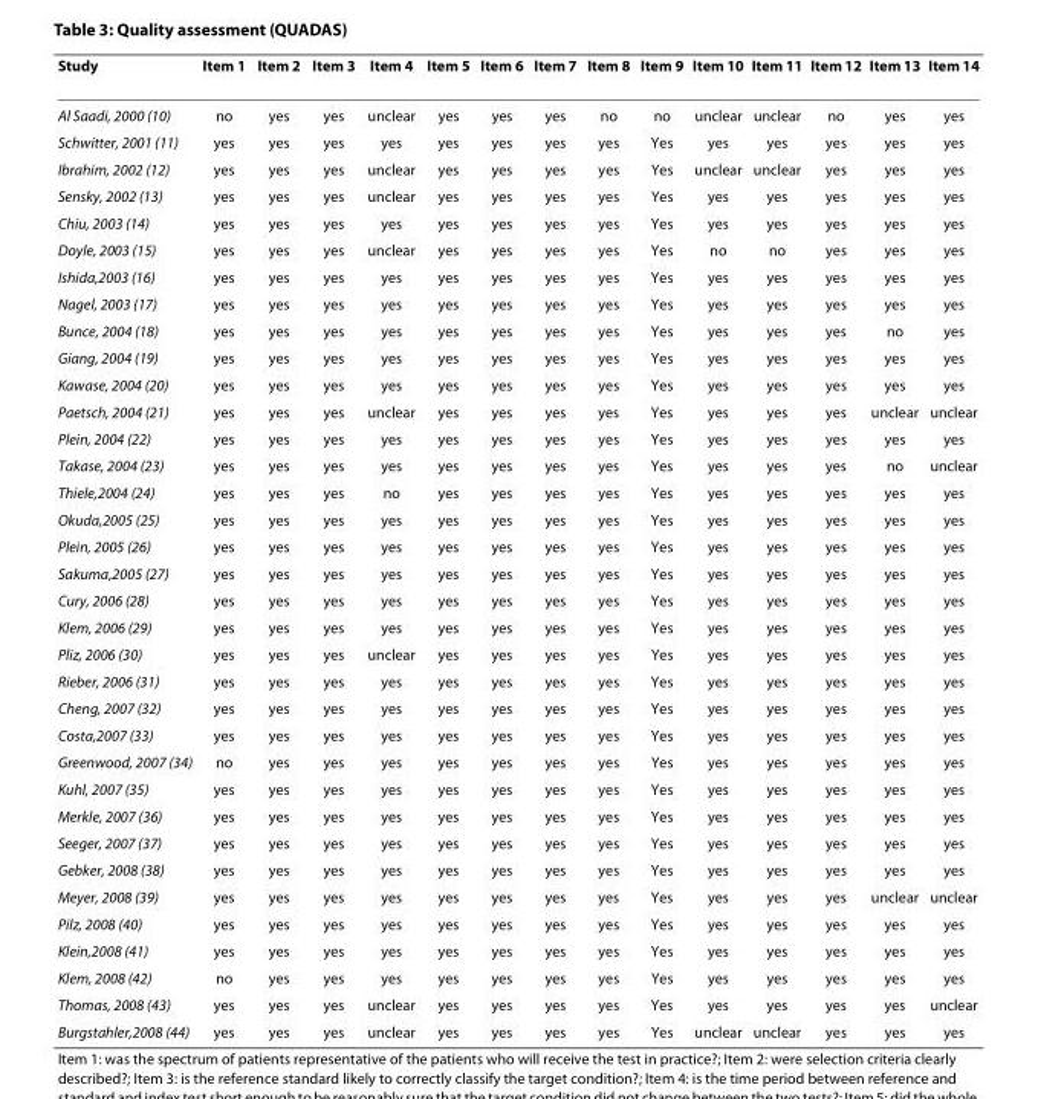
<table><thead><tr><td>Study</td><td>Item 1</td><td>Item 2</td><td>Item 3</td><td>Item 4</td><td>Item 5</td><td>Item 6</td><td>Item 7</td><td>Item 8</td><td>Item 9</td><td>Item 10</td><td>Item 11</td><td>Item 12</td><td>Item 13</td><td>Item 14</td></tr></thead><tbody><tr><td>Al Saadi, 2000 (10)</td><td>no</td><td>yes</td><td>yes</td><td>unclear</td><td>yes</td><td>yes</td><td>yes</td><td>no</td><td>no</td><td>unclear</td><td>unclear</td><td>no</td><td>yes</td><td>yes</td></tr><tr><td>Schwitter, 2001 (11)</td><td>yes</td><td>yes</td><td>yes</td><td>yes</td><td>yes</td><td>yes</td><td>yes</td><td>yes</td><td>Yes</td><td>yes</td><td>yes</td><td>yes</td><td>yes</td><td>yes</td></tr><tr><td>Ibrahim, 2002 (12)</td><td>yes</td><td>yes</td><td>yes</td><td>unclear</td><td>yes</td><td>yes</td><td>yes</td><td>yes</td><td>Yes</td><td>unclear</td><td>unclear</td><td>yes</td><td>yes</td><td>yes</td></tr><tr><td>Sensky, 2002 (13)</td><td>yes</td><td>yes</td><td>yes</td><td>unclear</td><td>yes</td><td>yes</td><td>yes</td><td>yes</td><td>Yes</td><td>yes</td><td>yes</td><td>yes</td><td>yes</td><td>yes</td></tr><tr><td>Chiu, 2003 (14)</td><td>yes</td><td>yes</td><td>yes</td><td>yes</td><td>yes</td><td>yes</td><td>yes</td><td>yes</td><td>Yes</td><td>yes</td><td>yes</td><td>yes</td><td>yes</td><td>yes</td></tr><tr><td>Doyle, 2003 (15)</td><td>yes</td><td>yes</td><td>yes</td><td>unclear</td><td>yes</td><td>yes</td><td>yes</td><td>yes</td><td>Yes</td><td>no</td><td>no</td><td>yes</td><td>yes</td><td>yes</td></tr><tr><td>Ishida,2003 (16)</td><td>yes</td><td>yes</td><td>yes</td><td>yes</td><td>yes</td><td>yes</td><td>yes</td><td>yes</td><td>Yes</td><td>yes</td><td>yes</td><td>yes</td><td>yes</td><td>yes</td></tr><tr><td>Nagel, 2003 (17)</td><td>yes</td><td>yes</td><td>yes</td><td>yes</td><td>yes</td><td>yes</td><td>yes</td><td>yes</td><td>Yes</td><td>yes</td><td>yes</td><td>yes</td><td>yes</td><td>yes</td></tr><tr><td>Bunce, 2004 (18)</td><td>yes</td><td>yes</td><td>yes</td><td>yes</td><td>yes</td><td>yes</td><td>yes</td><td>yes</td><td>Yes</td><td>yes</td><td>yes</td><td>yes</td><td>no</td><td>yes</td></tr><tr><td>Giang, 2004 (19)</td><td>yes</td><td>yes</td><td>yes</td><td>yes</td><td>yes</td><td>yes</td><td>yes</td><td>yes</td><td>Yes</td><td>yes</td><td>yes</td><td>yes</td><td>yes</td><td>yes</td></tr><tr><td>Kawase, 2004 (20)</td><td>yes</td><td>yes</td><td>yes</td><td>yes</td><td>yes</td><td>yes</td><td>yes</td><td>yes</td><td>Yes</td><td>yes</td><td>yes</td><td>yes</td><td>yes</td><td>yes</td></tr><tr><td>Paetsch, 2004 (21)</td><td>yes</td><td>yes</td><td>yes</td><td>unclear</td><td>yes</td><td>yes</td><td>yes</td><td>yes</td><td>Yes</td><td>yes</td><td>yes</td><td>yes</td><td>unclear</td><td>unclear</td></tr><tr><td>Plein, 2004 (22)</td><td>yes</td><td>yes</td><td>yes</td><td>yes</td><td>yes</td><td>yes</td><td>yes</td><td>yes</td><td>Yes</td><td>yes</td><td>yes</td><td>yes</td><td>yes</td><td>yes</td></tr><tr><td>Takase, 2004 (23)</td><td>yes</td><td>yes</td><td>yes</td><td>yes</td><td>yes</td><td>yes</td><td>yes</td><td>yes</td><td>Yes</td><td>yes</td><td>yes</td><td>yes</td><td>no</td><td>unclear</td></tr><tr><td>Thiele,2004 (24)</td><td>yes</td><td>yes</td><td>yes</td><td>no</td><td>yes</td><td>yes</td><td>yes</td><td>yes</td><td>Yes</td><td>yes</td><td>yes</td><td>yes</td><td>yes</td><td>yes</td></tr><tr><td>Okuda,2005 (25)</td><td>yes</td><td>yes</td><td>yes</td><td>yes</td><td>yes</td><td>yes</td><td>yes</td><td>yes</td><td>Yes</td><td>yes</td><td>yes</td><td>yes</td><td>yes</td><td>yes</td></tr><tr><td>Plein, 2005 (26)</td><td>yes</td><td>yes</td><td>yes</td><td>yes</td><td>yes</td><td>yes</td><td>yes</td><td>yes</td><td>Yes</td><td>yes</td><td>yes</td><td>yes</td><td>yes</td><td>yes</td></tr><tr><td>Sakuma,2005 (27)</td><td>yes</td><td>yes</td><td>yes</td><td>yes</td><td>yes</td><td>yes</td><td>yes</td><td>yes</td><td>Yes</td><td>yes</td><td>yes</td><td>yes</td><td>yes</td><td>yes</td></tr><tr><td>Cury, 2006 (28)</td><td>yes</td><td>yes</td><td>yes</td><td>yes</td><td>yes</td><td>yes</td><td>yes</td><td>yes</td><td>Yes</td><td>yes</td><td>yes</td><td>yes</td><td>yes</td><td>yes</td></tr><tr><td>Klem, 2006 (29)</td><td>yes</td><td>yes</td><td>yes</td><td>yes</td><td>yes</td><td>yes</td><td>yes</td><td>yes</td><td>Yes</td><td>yes</td><td>yes</td><td>yes</td><td>yes</td><td>yes</td></tr><tr><td>Pliz, 2006 (30)</td><td>yes</td><td>yes</td><td>yes</td><td>unclear</td><td>yes</td><td>yes</td><td>yes</td><td>yes</td><td>Yes</td><td>yes</td><td>yes</td><td>yes</td><td>yes</td><td>yes</td></tr><tr><td>Rieber, 2006 (31)</td><td>yes</td><td>yes</td><td>yes</td><td>yes</td><td>yes</td><td>yes</td><td>yes</td><td>yes</td><td>Yes</td><td>yes</td><td>yes</td><td>yes</td><td>yes</td><td>yes</td></tr><tr><td>Cheng, 2007 (32)</td><td>yes</td><td>yes</td><td>yes</td><td>yes</td><td>yes</td><td>yes</td><td>yes</td><td>yes</td><td>Yes</td><td>yes</td><td>yes</td><td>yes</td><td>yes</td><td>yes</td></tr><tr><td>Costa,2007 (33)</td><td>yes</td><td>yes</td><td>yes</td><td>yes</td><td>yes</td><td>yes</td><td>yes</td><td>yes</td><td>Yes</td><td>yes</td><td>yes</td><td>yes</td><td>yes</td><td>yes</td></tr><tr><td>Greenwood, 2007 (34)</td><td>no</td><td>yes</td><td>yes</td><td>yes</td><td>yes</td><td>yes</td><td>yes</td><td>yes</td><td>Yes</td><td>yes</td><td>yes</td><td>yes</td><td>yes</td><td>yes</td></tr><tr><td>Kuhl, 2007 (35)</td><td>yes</td><td>yes</td><td>yes</td><td>yes</td><td>yes</td><td>yes</td><td>yes</td><td>yes</td><td>Yes</td><td>yes</td><td>yes</td><td>yes</td><td>yes</td><td>yes</td></tr><tr><td>Merkle, 2007 (36)</td><td>yes</td><td>yes</td><td>yes</td><td>yes</td><td>yes</td><td>yes</td><td>yes</td><td>yes</td><td>Yes</td><td>yes</td><td>yes</td><td>yes</td><td>yes</td><td>yes</td></tr><tr><td>Seeger, 2007 (37)</td><td>yes</td><td>yes</td><td>yes</td><td>yes</td><td>yes</td><td>yes</td><td>yes</td><td>yes</td><td>Yes</td><td>yes</td><td>yes</td><td>yes</td><td>yes</td><td>yes</td></tr><tr><td>Gebker, 2008 (38)</td><td>yes</td><td>yes</td><td>yes</td><td>yes</td><td>yes</td><td>yes</td><td>yes</td><td>yes</td><td>Yes</td><td>yes</td><td>yes</td><td>yes</td><td>yes</td><td>yes</td></tr><tr><td>Meyer, 2008 (39)</td><td>yes</td><td>yes</td><td>yes</td><td>yes</td><td>yes</td><td>yes</td><td>yes</td><td>yes</td><td>Yes</td><td>yes</td><td>yes</td><td>yes</td><td>unclear</td><td>unclear</td></tr><tr><td>Pilz, 2008 (40)</td><td>yes</td><td>yes</td><td>yes</td><td>yes</td><td>yes</td><td>yes</td><td>yes</td><td>yes</td><td>Yes</td><td>yes</td><td>yes</td><td>yes</td><td>yes</td><td>yes</td></tr><tr><td>Klein,2008 (41)</td><td>yes</td><td>yes</td><td>yes</td><td>yes</td><td>yes</td><td>yes</td><td>yes</td><td>yes</td><td>Yes</td><td>yes</td><td>yes</td><td>yes</td><td>yes</td><td>yes</td></tr><tr><td>Klem, 2008 (42)</td><td>no</td><td>yes</td><td>yes</td><td>yes</td><td>yes</td><td>yes</td><td>yes</td><td>yes</td><td>Yes</td><td>yes</td><td>yes</td><td>yes</td><td>yes</td><td>yes</td></tr><tr><td>Thomas, 2008 (43)</td><td>yes</td><td>yes</td><td>yes</td><td>unclear</td><td>yes</td><td>yes</td><td>yes</td><td>yes</td><td>Yes</td><td>yes</td><td>yes</td><td>yes</td><td>yes</td><td>unclear</td></tr><tr><td>Burgstahler,2008 (44)</td><td>yes</td><td>yes</td><td>yes</td><td>unclear</td><td>yes</td><td>yes</td><td>yes</td><td>yes</td><td>Yes</td><td>unclear</td><td>unclear</td><td>yes</td><td>yes</td><td>yes</td></tr></tbody></table>